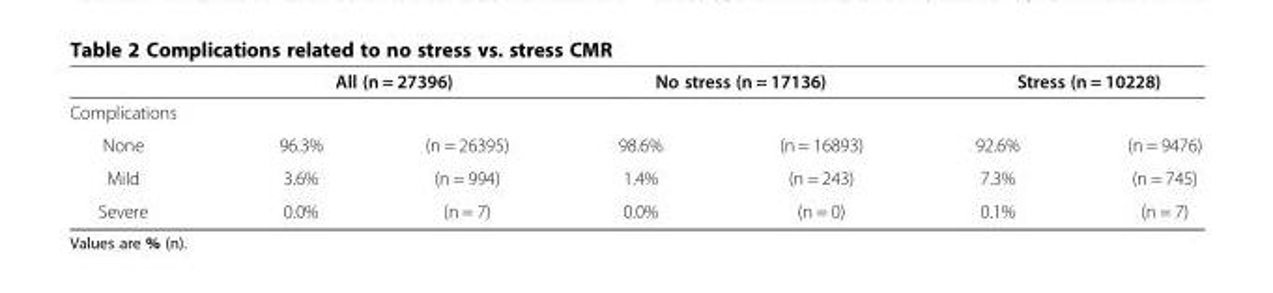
<table><thead><tr><td rowspan="2">Complications</td><td colspan="2">All (n = 27396)</td><td colspan="2">No stress (n = 17136)</td><td colspan="2">Stress (n = 10228)</td></tr><tr><td></td><td></td><td></td><td></td><td></td><td></td></tr></thead><tbody><tr><td>None</td><td>96.3%</td><td>(n = 26395)</td><td>98.6%</td><td>(n = 16893)</td><td>92.6%</td><td>(n = 9476)</td></tr><tr><td>Mild</td><td>3.6%</td><td>(n = 994)</td><td>1.4%</td><td>(n = 243)</td><td>7.3%</td><td>(n = 745)</td></tr><tr><td>Severe</td><td>0.0%</td><td>(n = 7)</td><td>0.0%</td><td>(n = 0)</td><td>0.1%</td><td>(n = 7)</td></tr></tbody></table>